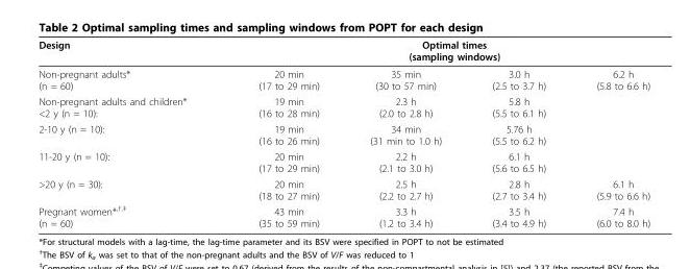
<table><thead><tr><td rowspan="2">Design Non-pregnant adults* (n = 60)</td><td colspan="4">Optimal times (sampling windows)</td></tr><tr><td>20 min (17 to 29 min)</td><td>35 min (30 to 57 min)</td><td>3.0 h (2.5 to 3.7 h)</td><td>6.2 h (5.8 to 6.6 h)</td></tr></thead><tbody><tr><td>Non-pregnant adults and children* &lt;2 y (n = 10):</td><td>19 min (16 to 28 min)</td><td>2.3 h (2.0 to 2.8 h)</td><td>5.8 h (5.5 to 6.1 h)</td><td></td></tr><tr><td>2-10 y (n = 10):</td><td>19 min (16 to 26 min)</td><td>34 min (31 min to 1.0 h)</td><td>5.76 h (5.5 to 6.2 h)</td><td></td></tr><tr><td>11-20 y (n = 10):</td><td>20 min (17 to 29 min)</td><td>2.2 h (2.1 to 3.0 h)</td><td>6.1 h (5.6 to 6.5 h)</td><td></td></tr><tr><td>&gt;20 y (n = 30):</td><td>20 min (18 to 27 min)</td><td>2.5 h (2.2 to 2.7 h)</td><td>2.8 h (2.7 to 3.4 h)</td><td>6.1 h (5.9 to 6.6 h)</td></tr><tr><td>Pregnant women*<sup>,†,‡</sup> (n = 60)</td><td>43 min (35 to 59 min)</td><td>3.3 h (1.2 to 3.4 h)</td><td>3.5 h (3.4 to 4.9 h)</td><td>7.4 h (6.0 to 8.0 h)</td></tr></tbody></table>